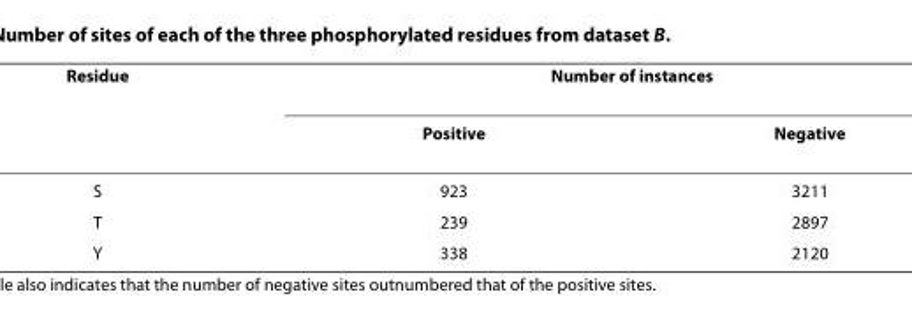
<table><thead><tr><td rowspan="2">Residue</td><td colspan="2">Number of instances</td></tr><tr><td>Positive</td><td>Negative</td></tr></thead><tbody><tr><td>S</td><td>923</td><td>3211</td></tr><tr><td>T</td><td>239</td><td>2897</td></tr><tr><td>Y</td><td>338</td><td>2120</td></tr></tbody></table>